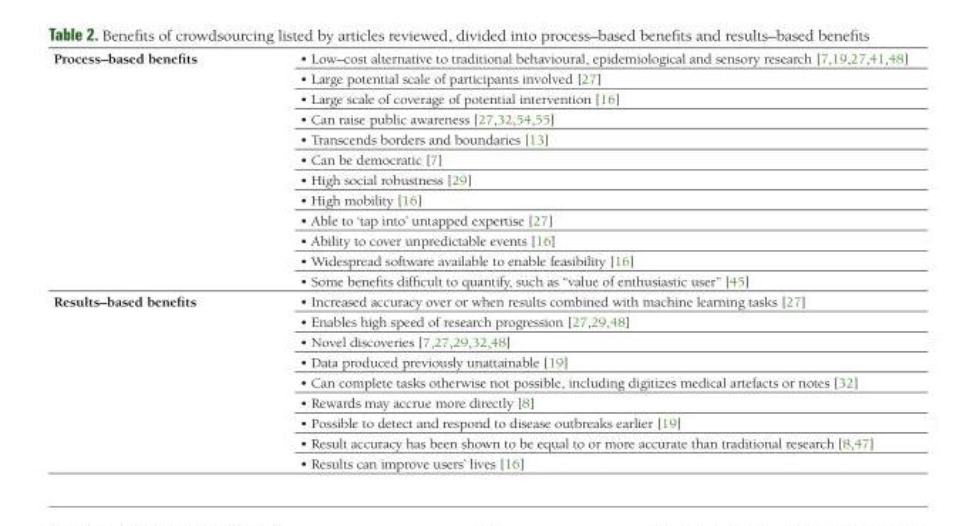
<table><tbody><tr><td rowspan="12">Process–based benefits</td><td>• Low–cost alternative to traditional behavioural, epidemiological and sensory research [7,19,27,41,48]</td></tr><tr><td>• Large potential scale of participants involved [27]</td></tr><tr><td>• Large scale of coverage of potential intervention [16]</td></tr><tr><td>• Can raise public awareness [27,32,54,55]</td></tr><tr><td>• Transcends borders and boundaries [13]</td></tr><tr><td>• Can be democratic [7]</td></tr><tr><td>• High social robustness [29]</td></tr><tr><td>• High mobility [16]</td></tr><tr><td>• Able to ‘tap into’ untapped expertise [27]</td></tr><tr><td>• Ability to cover unpredictable events [16]</td></tr><tr><td>• Widespread software available to enable feasibility [16]</td></tr><tr><td>• Some benefits difficult to quantify, such as “value of enthusiastic user” [45]</td></tr><tr><td rowspan="9">Results–based benefits</td><td>• Increased accuracy over or when results combined with machine learning tasks [27]</td></tr><tr><td>• Enables high speed of research progression [27,29,48]</td></tr><tr><td>• Novel discoveries [7,27,29,32,48]</td></tr><tr><td>• Data produced previously unattainable [19]</td></tr><tr><td>• Can complete tasks otherwise not possible, including digitizes medical artefacts or notes [32]</td></tr><tr><td>• Rewards may accrue more directly [8]</td></tr><tr><td>• Possible to detect and respond to disease outbreaks earlier [19]</td></tr><tr><td>• Result accuracy has been shown to be equal to or more accurate than traditional research [8,47]</td></tr><tr><td>• Results can improve users’ lives [16]</td></tr></tbody></table>